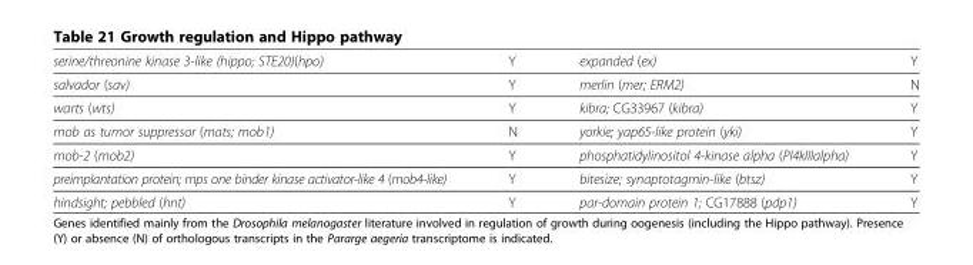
<table><tbody><tr><td>serine/threonine kinase 3-like (hippo; STE20)(hpo)</td><td>Y</td><td>expanded (ex)</td><td>Y</td></tr><tr><td>salvador (sav)</td><td>Y</td><td>merlin (mer; ERM2)</td><td>N</td></tr><tr><td>warts (wts)</td><td>Y</td><td>kibra; CG33967 (kibra)</td><td>Y</td></tr><tr><td>mob as tumor suppressor (mats; mob1)</td><td>N</td><td>yorkie; yap65-like protein (yki)</td><td>Y</td></tr><tr><td>mob-2 (mob2)</td><td>Y</td><td>phosphatidylinositol 4-kinase alpha (PI4kIIIalpha)</td><td>Y</td></tr><tr><td>preimplantation protein; mps one binder kinase activator-like 4 (mob4-like)</td><td>Y</td><td>bitesize; synaptotagmin-like (btsz)</td><td>Y</td></tr><tr><td>hindsight; pebbled (hnt)</td><td>Y</td><td>par-domain protein 1; CG17888 (pdp1)</td><td>Y</td></tr></tbody></table>